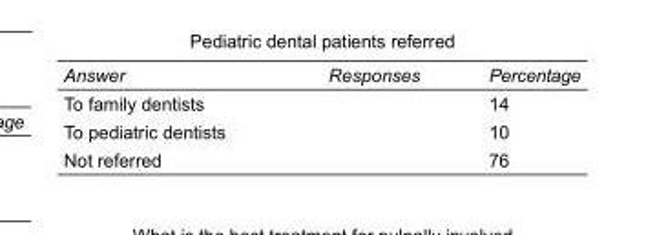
<table><tbody><tr><td>Answer</td><td>Responses</td><td>Percentage</td></tr><tr><td>To family dentists</td><td></td><td>14</td></tr><tr><td>To pediatric dentists</td><td></td><td>10</td></tr><tr><td>Not referred</td><td></td><td>76</td></tr></tbody></table>